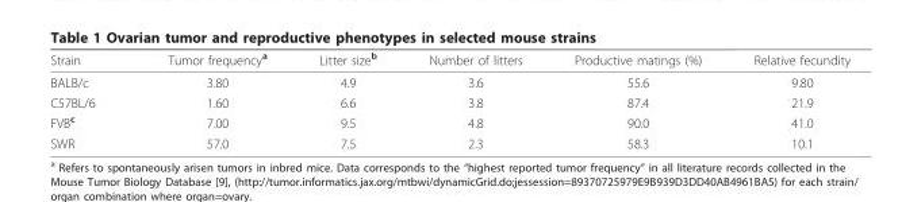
<table><thead><tr><td>Strain</td><td>Tumor frequency<sup>a</sup></td><td>Litter size<sup>b</sup></td><td>Number of litters</td><td>Productive matings (%)</td><td>Relative fecundity</td></tr></thead><tbody><tr><td>BALB/c</td><td>3.80</td><td>4.9</td><td>3.6</td><td>55.6</td><td>9.80</td></tr><tr><td>C57BL/6</td><td>1.60</td><td>6.6</td><td>3.8</td><td>87.4</td><td>21.9</td></tr><tr><td>FVB<sup>c</sup></td><td>7.00</td><td>9.5</td><td>4.8</td><td>90.0</td><td>41.0</td></tr><tr><td>SWR</td><td>57.0</td><td>7.5</td><td>2.3</td><td>58.3</td><td>10.1</td></tr></tbody></table>